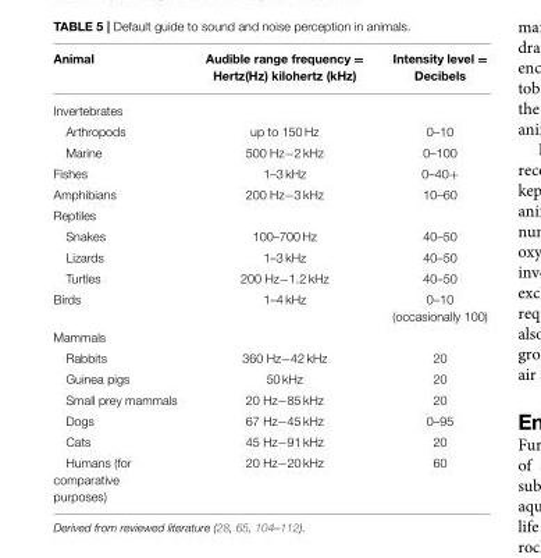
<table><thead><tr><td>Animal</td><td>Audible range frequency = Hertz(Hz) kilohertz (kHz)</td><td>Intensity level = Decibels</td></tr></thead><tbody><tr><td colspan="3">Invertebrates</td></tr><tr><td>Arthropods</td><td>up to 150 Hz</td><td>0–10</td></tr><tr><td>Marine</td><td>500 Hz−2 kHz</td><td>0–100</td></tr><tr><td>Fishes</td><td>1–3 kHz</td><td>0–40+</td></tr><tr><td>Amphibians</td><td>200 Hz−3 kHz</td><td>10–60</td></tr><tr><td colspan="3">Reptiles</td></tr><tr><td>Snakes</td><td>100–700 Hz</td><td>40–50</td></tr><tr><td>Lizards</td><td>1–3 kHz</td><td>40–50</td></tr><tr><td>Turtles</td><td>200 Hz−1.2 kHz</td><td>40–50</td></tr><tr><td>Birds</td><td>1–4 kHz</td><td>0–10 (occasionally 100)</td></tr><tr><td colspan="3">Mammals</td></tr><tr><td>Rabbits</td><td>360 Hz−42 kHz</td><td>20</td></tr><tr><td>Guinea pigs</td><td>50 kHz</td><td>20</td></tr><tr><td>Small prey mammals</td><td>20 Hz−85 kHz</td><td>20</td></tr><tr><td>Dogs</td><td>67 Hz−45 kHz</td><td>0–95</td></tr><tr><td>Cats</td><td>45 Hz−91 kHz</td><td>20</td></tr><tr><td>Humans (for comparative purposes)</td><td>20 Hz−20 kHz</td><td>60</td></tr></tbody></table>